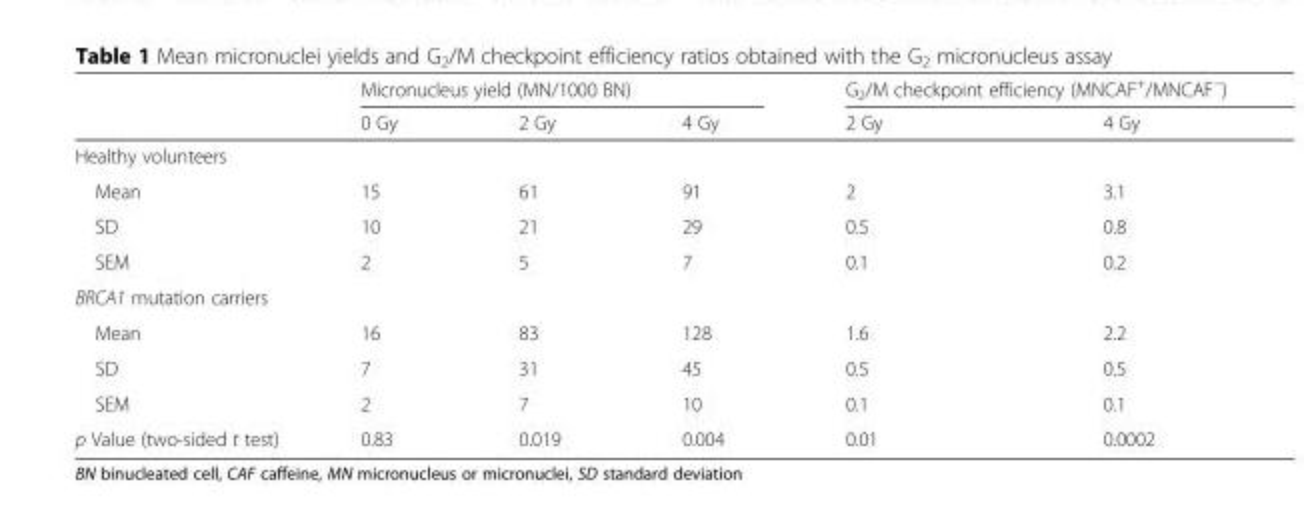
<table><thead><tr><td rowspan="2"></td><td colspan="3">Micronucleus yield (MN/1000 BN)</td><td colspan="2">G<sub>2</sub>/M checkpoint efficiency (MNCAF<sup>+</sup>/MNCAF<sup>−</sup>)</td></tr><tr><td>0 Gy</td><td>2 Gy</td><td>4 Gy</td><td>2 Gy</td><td>4 Gy</td></tr></thead><tbody><tr><td colspan="6">Healthy volunteers</td></tr><tr><td>Mean</td><td>15</td><td>61</td><td>91</td><td>2</td><td>3.1</td></tr><tr><td>SD</td><td>10</td><td>21</td><td>29</td><td>0.5</td><td>0.8</td></tr><tr><td>SEM</td><td>2</td><td>5</td><td>7</td><td>0.1</td><td>0.2</td></tr><tr><td colspan="6">BRCA1 mutation carriers</td></tr><tr><td>Mean</td><td>16</td><td>83</td><td>128</td><td>1.6</td><td>2.2</td></tr><tr><td>SD</td><td>7</td><td>31</td><td>45</td><td>0.5</td><td>0.5</td></tr><tr><td>SEM</td><td>2</td><td>7</td><td>10</td><td>0.1</td><td>0.1</td></tr><tr><td>p Value (two-sided t test)</td><td>0.83</td><td>0.019</td><td>0.004</td><td>0.01</td><td>0.0002</td></tr></tbody></table>